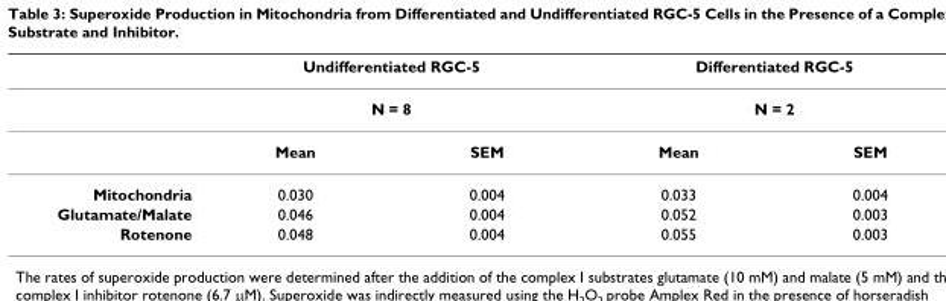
<table><thead><tr><td rowspan="3"></td><td rowspan="2" colspan="2">Undifferentiated RGC-5 N = 8</td><td rowspan="2" colspan="2">Differentiated RGC-5 N = 2</td></tr><tr></tr><tr><td>Mean</td><td>SEM</td><td>Mean</td><td>SEM</td></tr></thead><tbody><tr><td>Mitochondria</td><td>0.030</td><td>0.004</td><td>0.033</td><td>0.004</td></tr><tr><td>Glutamate/Malate</td><td>0.046</td><td>0.004</td><td>0.052</td><td>0.003</td></tr><tr><td>Rotenone</td><td>0.048</td><td>0.004</td><td>0.055</td><td>0.003</td></tr></tbody></table>